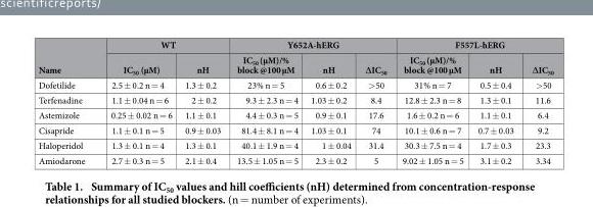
<table><thead><tr><td rowspan="2">Name</td><td colspan="2">WT</td><td colspan="3">Y652A-hERG</td><td colspan="3">F557L-hERG</td></tr><tr><td>IC<sub>50</sub> (μM)</td><td>nH</td><td>IC<sub>50</sub> (μM)/% block @100 μM</td><td>nH</td><td>∆IC<sub>50</sub></td><td>IC<sub>50</sub> (μM)/% block @100 μM</td><td>nH</td><td>∆IC<sub>50</sub></td></tr></thead><tbody><tr><td>Dofetilide</td><td>2.5 ± 0.2 n = 4</td><td>1.3 ± 0.2</td><td>23% n = 5</td><td>0.6 ± 0.2</td><td>&gt; 50</td><td>31% n = 7</td><td>0.5 ± 0.4</td><td>&gt;50</td></tr><tr><td>Terfenadine</td><td>1.1 ± 0.04 n = 6</td><td>2 ± 0.2</td><td>9.3 ± 2.3 n = 4</td><td>1.03 ± 0.2</td><td>8.4</td><td>12.8 ± 2.3 n = 8</td><td>1.3 ± 0.1</td><td>11.6</td></tr><tr><td>Astemizole</td><td>0.25 ± 0.02 n = 6</td><td>1.1 ± 0.1</td><td>4.4 ± 0.3 n = 5</td><td>0.9 ± 0.1</td><td>17.6</td><td>1.6 ± 0.2 n = 6</td><td>1.1 ± 0.1</td><td>6.4</td></tr><tr><td>Cisapride</td><td>1.1 ± 0.1 n = 5</td><td>0.9 ± 0.03</td><td>81.4 ± 8.1 n = 4</td><td>1.03 ± 0.1</td><td>74</td><td>10.1 ± 0.6 n = 7</td><td>0.7 ± 0.03</td><td>9.2</td></tr><tr><td>Haloperidol</td><td>1.3 ± 0.1 n = 4</td><td>1.3 ± 0.1</td><td>40.1 ± 1.9 n = 4</td><td>1 ± 0.04</td><td>31.4</td><td>30.3 ± 7.5 n = 4</td><td>1.7 ± 0.3</td><td>23.3</td></tr><tr><td>Amiodarone</td><td>2.7 ± 0.3 n = 5</td><td>2.1 ± 0.4</td><td>13.5 ± 1.05 n = 5</td><td>2.3 ± 0.2</td><td>5</td><td>9.02 ± 1.05 n = 5</td><td>3.1 ± 0.2</td><td>3.34</td></tr></tbody></table>